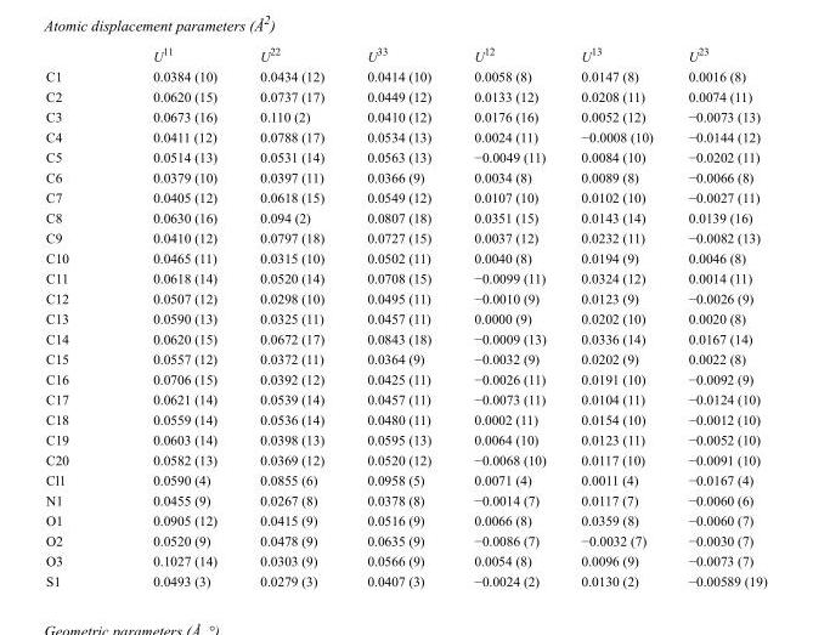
<table><thead><tr><td></td><td>U<sup>11</sup></td><td>U<sup>22</sup></td><td>U<sup>33</sup></td><td>U<sup>12</sup></td><td>U<sup>13</sup></td><td>U<sup>23</sup></td></tr></thead><tbody><tr><td>C1</td><td>0.0384 (10)</td><td>0.0434 (12)</td><td>0.0414 (10)</td><td>0.0058 (8)</td><td>0.0147 (8)</td><td>0.0016 (8)</td></tr><tr><td>C2</td><td>0.0620 (15)</td><td>0.0737 (17)</td><td>0.0449 (12)</td><td>0.0133 (12)</td><td>0.0208 (11)</td><td>0.0074 (11)</td></tr><tr><td>C3</td><td>0.0673 (16)</td><td>0.110 (2)</td><td>0.0410 (12)</td><td>0.0176 (16)</td><td>0.0052 (12)</td><td>−0.0073 (13)</td></tr><tr><td>C4</td><td>0.0411 (12)</td><td>0.0788 (17)</td><td>0.0534 (13)</td><td>0.0024 (11)</td><td>−0.0008 (10)</td><td>−0.0144 (12)</td></tr><tr><td>C5</td><td>0.0514 (13)</td><td>0.0531 (14)</td><td>0.0563 (13)</td><td>−0.0049 (11)</td><td>0.0084 (10)</td><td>−0.0202 (11)</td></tr><tr><td>C6</td><td>0.0379 (10)</td><td>0.0397 (11)</td><td>0.0366 (9)</td><td>0.0034 (8)</td><td>0.0089 (8)</td><td>−0.0066 (8)</td></tr><tr><td>C7</td><td>0.0405 (12)</td><td>0.0618 (15)</td><td>0.0549 (12)</td><td>0.0107 (10)</td><td>0.0102 (10)</td><td>−0.0027 (11)</td></tr><tr><td>C8</td><td>0.0630 (16)</td><td>0.094 (2)</td><td>0.0807 (18)</td><td>0.0351 (15)</td><td>0.0143 (14)</td><td>0.0139 (16)</td></tr><tr><td>C9</td><td>0.0410 (12)</td><td>0.0797 (18)</td><td>0.0727 (15)</td><td>0.0037 (12)</td><td>0.0232 (11)</td><td>−0.0082 (13)</td></tr><tr><td>C10</td><td>0.0465 (11)</td><td>0.0315 (10)</td><td>0.0502 (11)</td><td>0.0040 (8)</td><td>0.0194 (9)</td><td>0.0046 (8)</td></tr><tr><td>C11</td><td>0.0618 (14)</td><td>0.0520 (14)</td><td>0.0708 (15)</td><td>−0.0099 (11)</td><td>0.0324 (12)</td><td>0.0014 (11)</td></tr><tr><td>C12</td><td>0.0507 (12)</td><td>0.0298 (10)</td><td>0.0495 (11)</td><td>−0.0010 (9)</td><td>0.0123 (9)</td><td>−0.0026 (9)</td></tr><tr><td>C13</td><td>0.0590 (13)</td><td>0.0325 (11)</td><td>0.0457 (11)</td><td>0.0000 (9)</td><td>0.0202 (10)</td><td>0.0020 (8)</td></tr><tr><td>C14</td><td>0.0620 (15)</td><td>0.0672 (17)</td><td>0.0843 (18)</td><td>−0.0009 (13)</td><td>0.0336 (14)</td><td>0.0167 (14)</td></tr><tr><td>C15</td><td>0.0557 (12)</td><td>0.0372 (11)</td><td>0.0364 (9)</td><td>−0.0032 (9)</td><td>0.0202 (9)</td><td>0.0022 (8)</td></tr><tr><td>C16</td><td>0.0706 (15)</td><td>0.0392 (12)</td><td>0.0425 (11)</td><td>−0.0026 (11)</td><td>0.0191 (10)</td><td>−0.0092 (9)</td></tr><tr><td>C17</td><td>0.0621 (14)</td><td>0.0539 (14)</td><td>0.0457 (11)</td><td>−0.0073 (11)</td><td>0.0104 (11)</td><td>−0.0124 (10)</td></tr><tr><td>C18</td><td>0.0559 (14)</td><td>0.0536 (14)</td><td>0.0480 (11)</td><td>0.0002 (11)</td><td>0.0154 (10)</td><td>−0.0012 (10)</td></tr><tr><td>C19</td><td>0.0603 (14)</td><td>0.0398 (13)</td><td>0.0595 (13)</td><td>0.0064 (10)</td><td>0.0123 (11)</td><td>−0.0052 (10)</td></tr><tr><td>C20</td><td>0.0582 (13)</td><td>0.0369 (12)</td><td>0.0520 (12)</td><td>−0.0068 (10)</td><td>0.0117 (10)</td><td>−0.0091 (10)</td></tr><tr><td>Cl1</td><td>0.0590 (4)</td><td>0.0855 (6)</td><td>0.0958 (5)</td><td>0.0071 (4)</td><td>0.0011 (4)</td><td>−0.0167 (4)</td></tr><tr><td>N1</td><td>0.0455 (9)</td><td>0.0267 (8)</td><td>0.0378 (8)</td><td>−0.0014 (7)</td><td>0.0117 (7)</td><td>−0.0060 (6)</td></tr><tr><td>O1</td><td>0.0905 (12)</td><td>0.0415 (9)</td><td>0.0516 (9)</td><td>0.0066 (8)</td><td>0.0359 (8)</td><td>−0.0060 (7)</td></tr><tr><td>O2</td><td>0.0520 (9)</td><td>0.0478 (9)</td><td>0.0635 (9)</td><td>−0.0086 (7)</td><td>−0.0032 (7)</td><td>−0.0030 (7)</td></tr><tr><td>O3</td><td>0.1027 (14)</td><td>0.0303 (9)</td><td>0.0566 (9)</td><td>0.0054 (8)</td><td>0.0096 (9)</td><td>−0.0073 (7)</td></tr><tr><td>S1</td><td>0.0493 (3)</td><td>0.0279 (3)</td><td>0.0407 (3)</td><td>−0.0024 (2)</td><td>0.0130 (2)</td><td>−0.00589 (19)</td></tr></tbody></table>